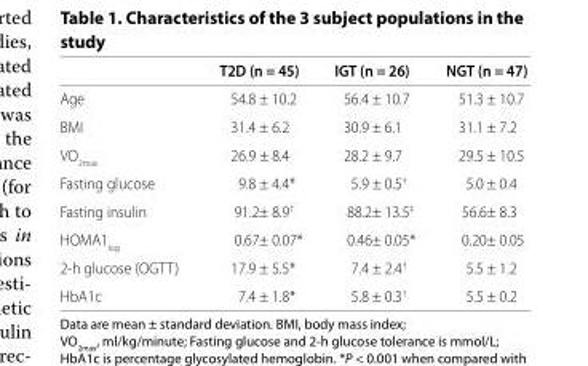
<table><thead><tr><td></td><td>T2D (n = 45)</td><td>IGT (n = 26)</td><td>NGT (n = 47)</td></tr></thead><tbody><tr><td>Age</td><td>54.8 ± 10.2</td><td>56.4 ± 10.7</td><td>51.3 ± 10.7</td></tr><tr><td>BMI</td><td>31.4 ± 6.2</td><td>30.9 ± 6.1</td><td>31.1 ± 7.2</td></tr><tr><td>VO<sub>2max</sub></td><td>26.9 ± 8.4</td><td>28.2 ± 9.7</td><td>29.5 ± 10.5</td></tr><tr><td>Fasting glucose</td><td>9.8 ± 4.4*</td><td>5.9 ± 0.5<sup>†</sup></td><td>5.0 ± 0.4</td></tr><tr><td>Fasting insulin</td><td>91.2± 8.9<sup>†</sup></td><td>88.2± 13.5<sup>‡</sup></td><td>56.6± 8.3</td></tr><tr><td>HOMA1<sub>log</sub></td><td>0.67± 0.07*</td><td>0.46± 0.05*</td><td>0.20± 0.05</td></tr><tr><td>2-h glucose (OGTT)</td><td>17.9 ± 5.5*</td><td>7.4 ± 2.4<sup>†</sup></td><td>5.5 ± 1.2</td></tr><tr><td>HbA1c</td><td>7.4 ± 1.8*</td><td>5.8 ± 0.3<sup>†</sup></td><td>5.5 ± 0.2</td></tr></tbody></table>